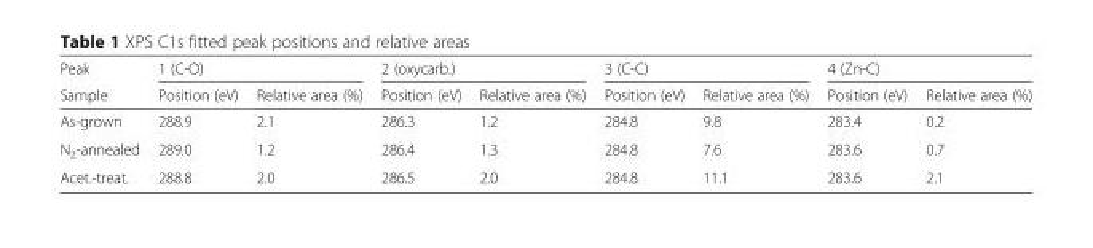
<table><thead><tr><td rowspan="2">Peak Sample</td><td colspan="2">1 (C-O)</td><td colspan="2">2 (oxycarb.)</td><td colspan="2">3 (C-C)</td><td colspan="2">4 (Zn-C)</td></tr><tr><td>Position (eV)</td><td>Relative area (%)</td><td>Position (eV)</td><td>Relative area (%)</td><td>Position (eV)</td><td>Relative area (%)</td><td>Position (eV)</td><td>Relative area (%)</td></tr></thead><tbody><tr><td>As-grown</td><td>288.9</td><td>2.1</td><td>286.3</td><td>1.2</td><td>284.8</td><td>9.8</td><td>283.4</td><td>0.2</td></tr><tr><td>N<sub>2</sub>-annealed</td><td>289.0</td><td>1.2</td><td>286.4</td><td>1.3</td><td>284.8</td><td>7.6</td><td>283.6</td><td>0.7</td></tr><tr><td>Acet.-treat.</td><td>288.8</td><td>2.0</td><td>286.5</td><td>2.0</td><td>284.8</td><td>11.1</td><td>283.6</td><td>2.1</td></tr></tbody></table>